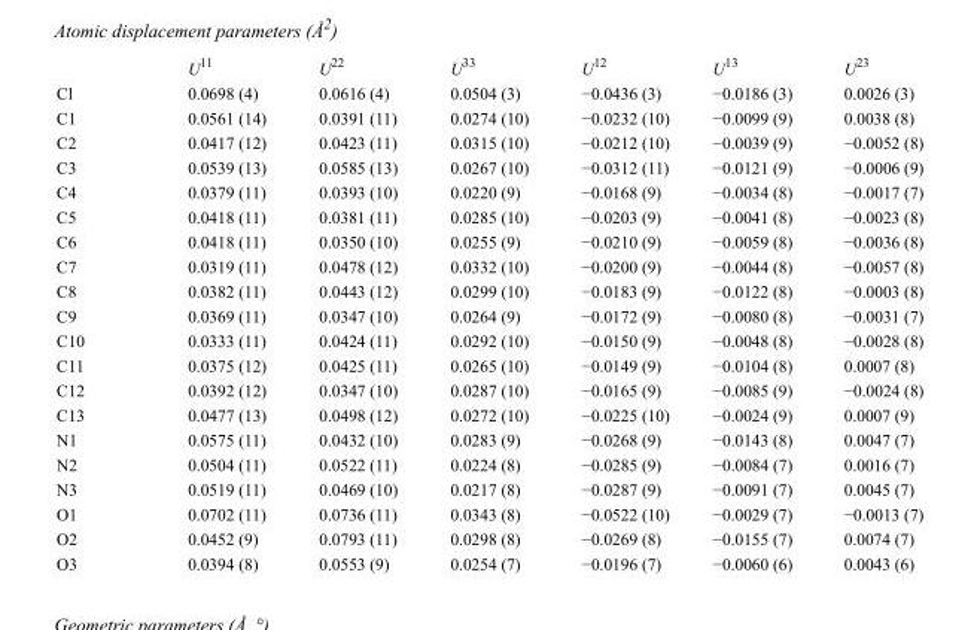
<table><thead><tr><td></td><td>U<sup>11</sup></td><td>U<sup>22</sup></td><td>U<sup>33</sup></td><td>U<sup>12</sup></td><td>U<sup>13</sup></td><td>U<sup>23</sup></td></tr></thead><tbody><tr><td>Cl</td><td>0.0698 (4)</td><td>0.0616 (4)</td><td>0.0504 (3)</td><td>−0.0436 (3)</td><td>−0.0186 (3)</td><td>0.0026 (3)</td></tr><tr><td>C1</td><td>0.0561 (14)</td><td>0.0391 (11)</td><td>0.0274 (10)</td><td>−0.0232 (10)</td><td>−0.0099 (9)</td><td>0.0038 (8)</td></tr><tr><td>C2</td><td>0.0417 (12)</td><td>0.0423 (11)</td><td>0.0315 (10)</td><td>−0.0212 (10)</td><td>−0.0039 (9)</td><td>−0.0052 (8)</td></tr><tr><td>C3</td><td>0.0539 (13)</td><td>0.0585 (13)</td><td>0.0267 (10)</td><td>−0.0312 (11)</td><td>−0.0121 (9)</td><td>−0.0006 (9)</td></tr><tr><td>C4</td><td>0.0379 (11)</td><td>0.0393 (10)</td><td>0.0220 (9)</td><td>−0.0168 (9)</td><td>−0.0034 (8)</td><td>−0.0017 (7)</td></tr><tr><td>C5</td><td>0.0418 (11)</td><td>0.0381 (11)</td><td>0.0285 (10)</td><td>−0.0203 (9)</td><td>−0.0041 (8)</td><td>−0.0023 (8)</td></tr><tr><td>C6</td><td>0.0418 (11)</td><td>0.0350 (10)</td><td>0.0255 (9)</td><td>−0.0210 (9)</td><td>−0.0059 (8)</td><td>−0.0036 (8)</td></tr><tr><td>C7</td><td>0.0319 (11)</td><td>0.0478 (12)</td><td>0.0332 (10)</td><td>−0.0200 (9)</td><td>−0.0044 (8)</td><td>−0.0057 (8)</td></tr><tr><td>C8</td><td>0.0382 (11)</td><td>0.0443 (12)</td><td>0.0299 (10)</td><td>−0.0183 (9)</td><td>−0.0122 (8)</td><td>−0.0003 (8)</td></tr><tr><td>C9</td><td>0.0369 (11)</td><td>0.0347 (10)</td><td>0.0264 (9)</td><td>−0.0172 (9)</td><td>−0.0080 (8)</td><td>−0.0031 (7)</td></tr><tr><td>C10</td><td>0.0333 (11)</td><td>0.0424 (11)</td><td>0.0292 (10)</td><td>−0.0150 (9)</td><td>−0.0048 (8)</td><td>−0.0028 (8)</td></tr><tr><td>C11</td><td>0.0375 (12)</td><td>0.0425 (11)</td><td>0.0265 (10)</td><td>−0.0149 (9)</td><td>−0.0104 (8)</td><td>0.0007 (8)</td></tr><tr><td>C12</td><td>0.0392 (12)</td><td>0.0347 (10)</td><td>0.0287 (10)</td><td>−0.0165 (9)</td><td>−0.0085 (9)</td><td>−0.0024 (8)</td></tr><tr><td>C13</td><td>0.0477 (13)</td><td>0.0498 (12)</td><td>0.0272 (10)</td><td>−0.0225 (10)</td><td>−0.0024 (9)</td><td>0.0007 (9)</td></tr><tr><td>N1</td><td>0.0575 (11)</td><td>0.0432 (10)</td><td>0.0283 (9)</td><td>−0.0268 (9)</td><td>−0.0143 (8)</td><td>0.0047 (7)</td></tr><tr><td>N2</td><td>0.0504 (11)</td><td>0.0522 (11)</td><td>0.0224 (8)</td><td>−0.0285 (9)</td><td>−0.0084 (7)</td><td>0.0016 (7)</td></tr><tr><td>N3</td><td>0.0519 (11)</td><td>0.0469 (10)</td><td>0.0217 (8)</td><td>−0.0287 (9)</td><td>−0.0091 (7)</td><td>0.0045 (7)</td></tr><tr><td>O1</td><td>0.0702 (11)</td><td>0.0736 (11)</td><td>0.0343 (8)</td><td>−0.0522 (10)</td><td>−0.0029 (7)</td><td>−0.0013 (7)</td></tr><tr><td>O2</td><td>0.0452 (9)</td><td>0.0793 (11)</td><td>0.0298 (8)</td><td>−0.0269 (8)</td><td>−0.0155 (7)</td><td>0.0074 (7)</td></tr><tr><td>O3</td><td>0.0394 (8)</td><td>0.0553 (9)</td><td>0.0254 (7)</td><td>−0.0196 (7)</td><td>−0.0060 (6)</td><td>0.0043 (6)</td></tr></tbody></table>